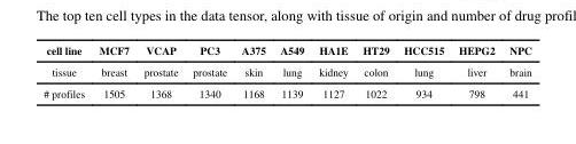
<table><thead><tr><td>cell line</td><td>MCF7</td><td>VCAP</td><td>PC3</td><td>A375</td><td>A549</td><td>HA1E</td><td>HT29</td><td>HCC515</td><td>HEPG2</td><td>NPC</td></tr></thead><tbody><tr><td>tissue</td><td>breast</td><td>prostate</td><td>prostate</td><td>skin</td><td>lung</td><td>kidney</td><td>colon</td><td>lung</td><td>liver</td><td>brain</td></tr><tr><td># profiles</td><td>1505</td><td>1368</td><td>1340</td><td>1168</td><td>1139</td><td>1127</td><td>1022</td><td>934</td><td>798</td><td>441</td></tr></tbody></table>